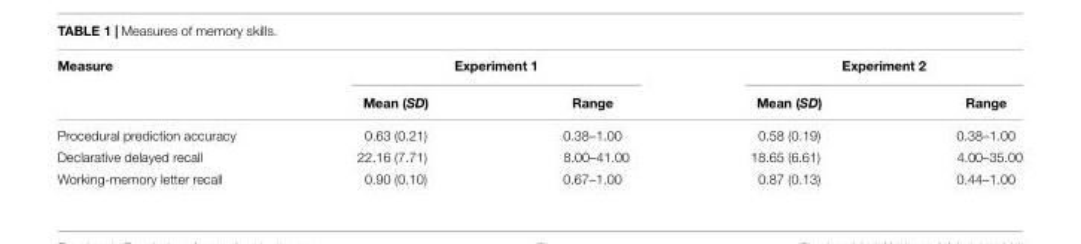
<table><thead><tr><td rowspan="2">Measure</td><td colspan="2">Experiment 1</td><td colspan="2">Experiment 2</td></tr><tr><td>Mean (SD)</td><td>Range</td><td>Mean (SD)</td><td>Range</td></tr></thead><tbody><tr><td>Procedural prediction accuracy</td><td>0.63 (0.21)</td><td>0.38–1.00</td><td>0.58 (0.19)</td><td>0.38–1.00</td></tr><tr><td>Declarative delayed recall</td><td>22.16 (7.71)</td><td>8.00–41.00</td><td>18.65 (6.61)</td><td>4.00–35.00</td></tr><tr><td>Working-memory letter recall</td><td>0.90 (0.10)</td><td>0.67–1.00</td><td>0.87 (0.13)</td><td>0.44–1.00</td></tr></tbody></table>